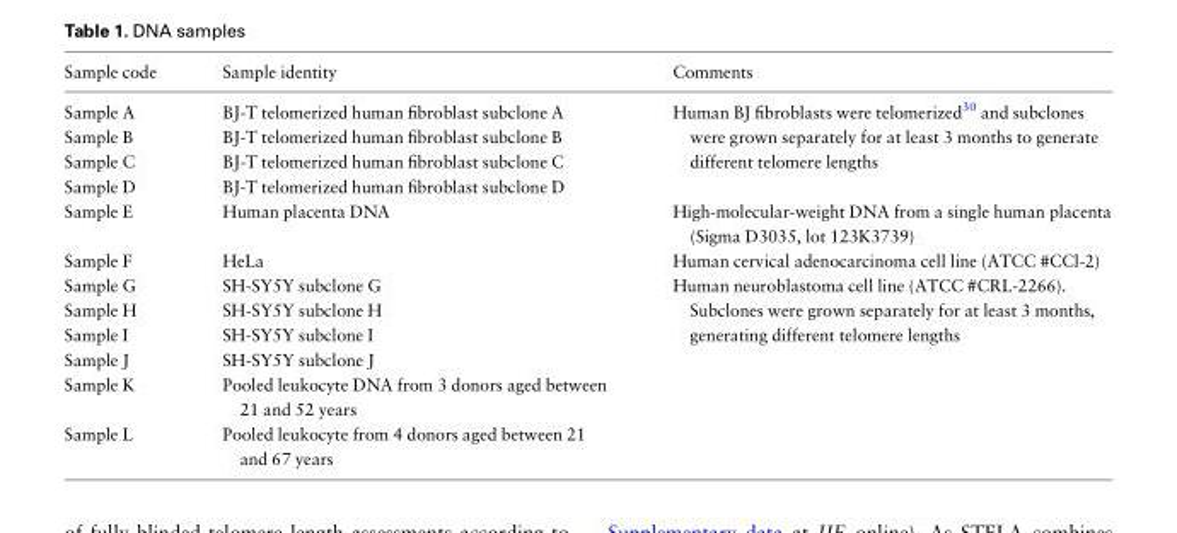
<table><thead><tr><td>Sample code</td><td>Sample identity</td><td>Comments</td></tr></thead><tbody><tr><td>Sample A</td><td>BJ-T telomerized human fibroblast subclone A</td><td rowspan="4">Human BJ fibroblasts were telomerized<sup>30</sup> and subclones were grown separately for at least 3 months to generate different telomere lengths</td></tr><tr><td>Sample B</td><td>BJ-T telomerized human fibroblast subclone B</td></tr><tr><td>Sample C</td><td>BJ-T telomerized human fibroblast subclone C</td></tr><tr><td>Sample D</td><td>BJ-T telomerized human fibroblast subclone D</td></tr><tr><td>Sample E</td><td>Human placenta DNA</td><td>High-molecular-weight DNA from a single human placenta (Sigma D3035, lot 123K3739)</td></tr><tr><td>Sample F</td><td>HeLa</td><td>Human cervical adenocarcinoma cell line (ATCC #CCl-2)</td></tr><tr><td>Sample G</td><td>SH-SY5Y subclone G</td><td rowspan="4">Human neuroblastoma cell line (ATCC #CRL-2266). Subclones were grown separately for at least 3 months, generating different telomere lengths</td></tr><tr><td>Sample H</td><td>SH-SY5Y subclone H</td></tr><tr><td>Sample I</td><td>SH-SY5Y subclone I</td></tr><tr><td>Sample J</td><td>SH-SY5Y subclone J</td></tr><tr><td>Sample K</td><td>Pooled leukocyte DNA from 3 donors aged between 21 and 52 years</td><td></td></tr><tr><td>Sample L</td><td>Pooled leukocyte from 4 donors aged between 21 and 67 years</td><td></td></tr></tbody></table>